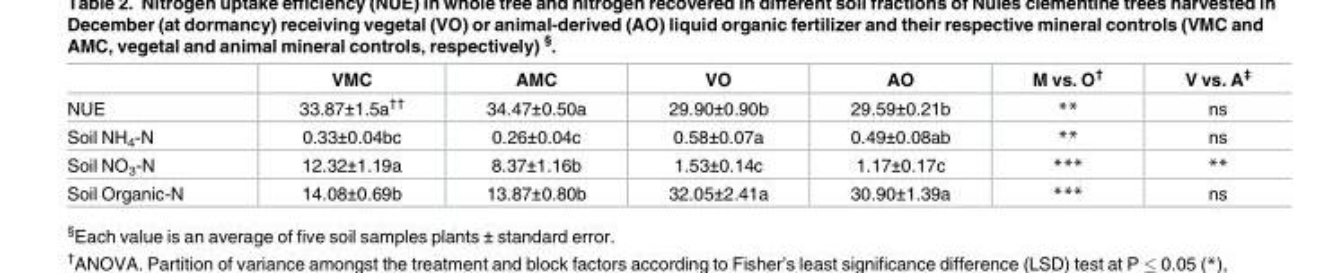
<table><thead><tr><td></td><td>VMC</td><td>AMC</td><td>VO</td><td>AO</td><td>M vs. O<sup>†</sup></td><td>V vs. A<sup>‡</sup></td></tr></thead><tbody><tr><td>NUE</td><td>33.87±1.5a<sup>††</sup></td><td>34.47±0.50a</td><td>29.90±0.90b</td><td>29.59±0.21b</td><td>**</td><td>ns</td></tr><tr><td>Soil NH<sub>4</sub>-N</td><td>0.33±0.04bc</td><td>0.26±0.04c</td><td>0.58±0.07a</td><td>0.49±0.08ab</td><td>**</td><td>ns</td></tr><tr><td>Soil NO<sub>3</sub>-N</td><td>12.32±1.19a</td><td>8.37±1.16b</td><td>1.53±0.14c</td><td>1.17±0.17c</td><td>***</td><td>**</td></tr><tr><td>Soil Organic-N</td><td>14.08±0.69b</td><td>13.87±0.80b</td><td>32.05±2.41a</td><td>30.90±1.39a</td><td>***</td><td>ns</td></tr></tbody></table>